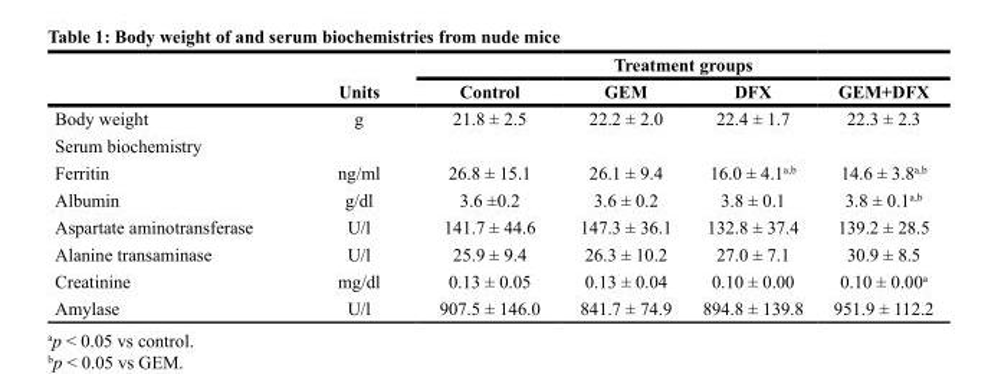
<table><thead><tr><td rowspan="2"></td><td rowspan="2">Units</td><td colspan="4">Treatment groups</td></tr><tr><td>Control</td><td>GEM</td><td>DFX</td><td>GEM+DFX</td></tr></thead><tbody><tr><td>Body weight</td><td>g</td><td>21.8 ± 2.5</td><td>22.2 ± 2.0</td><td>22.4 ± 1.7</td><td>22.3 ± 2.3</td></tr><tr><td colspan="6">Serum biochemistry</td></tr><tr><td>Ferritin</td><td>ng/ml</td><td>26.8 ± 15.1</td><td>26.1 ± 9.4</td><td>16.0 ± 4.1<sup>a,b</sup></td><td>14.6 ± 3.8<sup>a,b</sup></td></tr><tr><td>Albumin</td><td>g/dl</td><td>3.6 ±0.2</td><td>3.6 ± 0.2</td><td>3.8 ± 0.1</td><td>3.8 ± 0.1<sup>a,b</sup></td></tr><tr><td>Aspartate aminotransferase</td><td>U/l</td><td>141.7 ± 44.6</td><td>147.3 ± 36.1</td><td>132.8 ± 37.4</td><td>139.2 ± 28.5</td></tr><tr><td>Alanine transaminase</td><td>U/l</td><td>25.9 ± 9.4</td><td>26.3 ± 10.2</td><td>27.0 ± 7.1</td><td>30.9 ± 8.5</td></tr><tr><td>Creatinine</td><td>mg/dl</td><td>0.13 ± 0.05</td><td>0.13 ± 0.04</td><td>0.10 ± 0.00</td><td>0.10 ± 0.00<sup>a</sup></td></tr><tr><td>Amylase</td><td>U/l</td><td>907.5 ± 146.0</td><td>841.7 ± 74.9</td><td>894.8 ± 139.8</td><td>951.9 ± 112.2</td></tr></tbody></table>